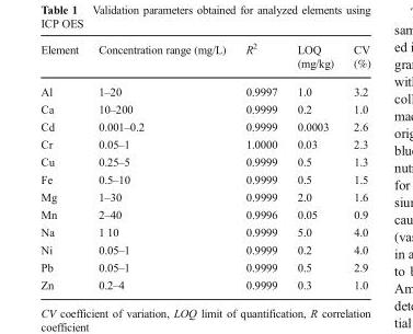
<table><thead><tr><td>Element</td><td>Concentration range (mg/L)</td><td>R<sup>2</sup></td><td>LOQ (mg/kg)</td><td>CV (%)</td></tr></thead><tbody><tr><td>Al</td><td>1–20</td><td>0.9997</td><td>1.0</td><td>3.2</td></tr><tr><td>Ca</td><td>10–200</td><td>0.9999</td><td>0.2</td><td>1.0</td></tr><tr><td>Cd</td><td>0.001–0.2</td><td>0.9999</td><td>0.0003</td><td>2.6</td></tr><tr><td>Cr</td><td>0.05–1</td><td>1.0000</td><td>0.03</td><td>2.3</td></tr><tr><td>Cu</td><td>0.25–5</td><td>0.9999</td><td>0.5</td><td>1.3</td></tr><tr><td>Fe</td><td>0.5–10</td><td>0.9999</td><td>0.5</td><td>1.5</td></tr><tr><td>Mg</td><td>1–30</td><td>0.9999</td><td>2.0</td><td>1.6</td></tr><tr><td>Mn</td><td>2–40</td><td>0.9996</td><td>0.05</td><td>0.9</td></tr><tr><td>Na</td><td>1 10</td><td>0.9999</td><td>5.0</td><td>4.0</td></tr><tr><td>Ni</td><td>0.05–1</td><td>0.9999</td><td>0.2</td><td>4.0</td></tr><tr><td>Pb</td><td>0.05–1</td><td>0.9999</td><td>0.5</td><td>2.9</td></tr><tr><td>Zn</td><td>0.2–4</td><td>0.9999</td><td>0.3</td><td>1.0</td></tr></tbody></table>